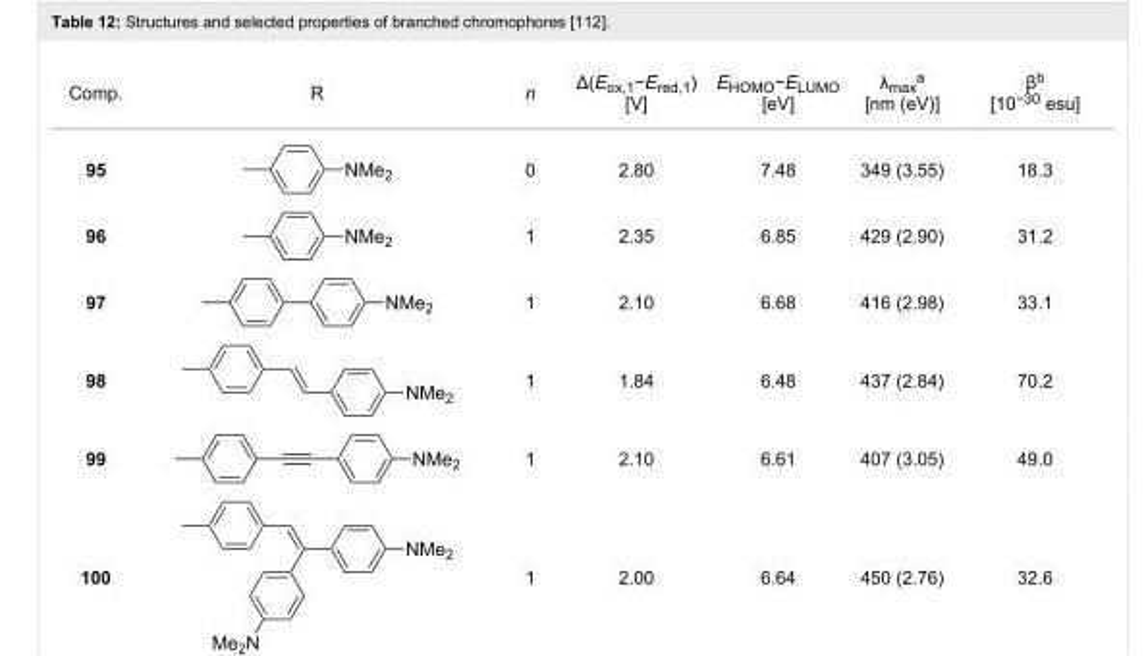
<table><tbody><tr><td>Comp.</td><td>R</td><td>n</td><td>Δ(E<sub>ox,1</sub>−E<sub>red,1</sub>) [V]</td><td>E<sub>HOMO</sub>−E<sub>LUMO</sub> [eV]</td><td>λ<sub>max</sub><sup>a</sup> [nm (eV)]</td><td>β<sup>b</sup> [10<sup>−30</sup> esu]</td></tr><tr><td>95</td><td></td><td>0</td><td>2.80</td><td>7.48</td><td>349 (3.55)</td><td>18.3</td></tr><tr><td>96</td><td></td><td>1</td><td>2.35</td><td>6.85</td><td>429 (2.90)</td><td>31.2</td></tr><tr><td>97</td><td></td><td>1</td><td>2.10</td><td>6.68</td><td>416 (2.98)</td><td>33.1</td></tr><tr><td>98</td><td></td><td>1</td><td>1.84</td><td>6.48</td><td>437 (2.84)</td><td>70.2</td></tr><tr><td>99</td><td></td><td>1</td><td>2.10</td><td>6.61</td><td>407 (3.05)</td><td>49.0</td></tr><tr><td>100</td><td></td><td>1</td><td>2.00</td><td>6.64</td><td>450 (2.76)</td><td>32.6</td></tr></tbody></table>